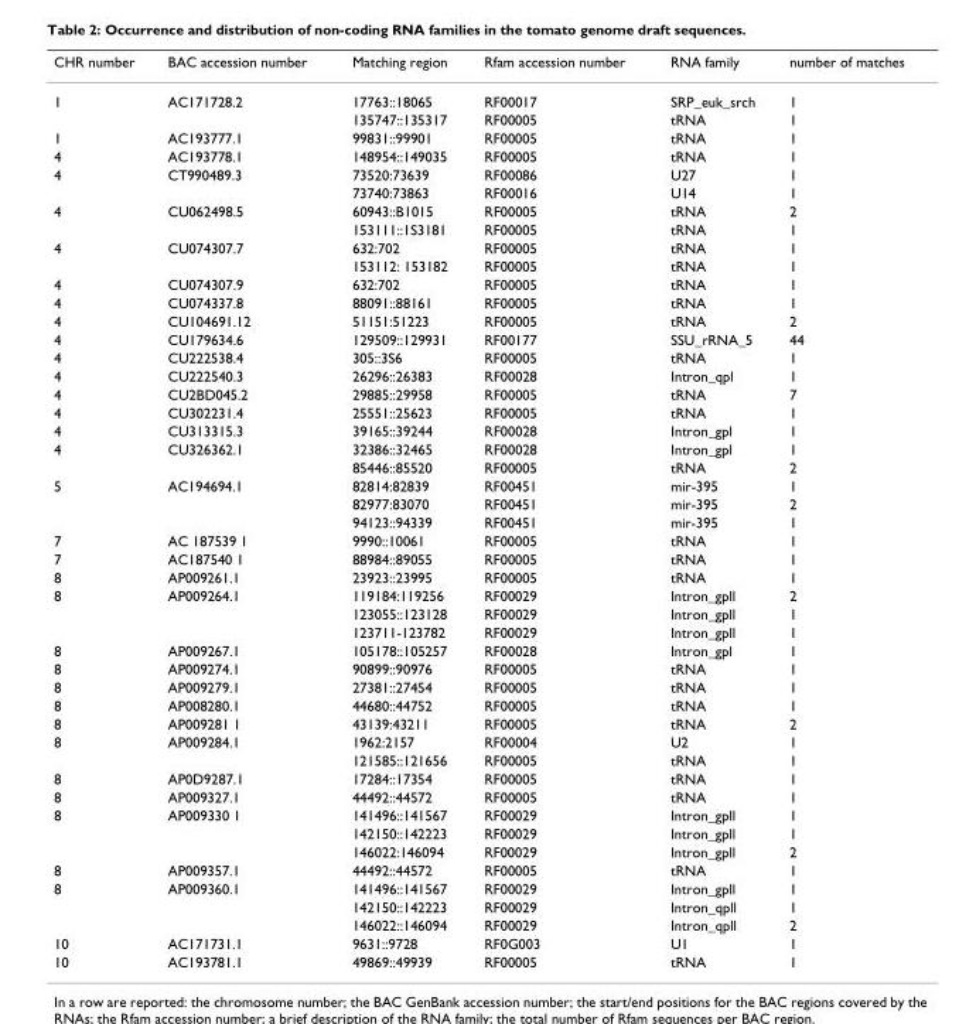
<table><thead><tr><td>CHR number</td><td>BAC accession number</td><td>Matching region</td><td>Rfam accession number</td><td>RNA family</td><td>number of matches</td></tr></thead><tbody><tr><td rowspan="2">1</td><td>AC171728.2</td><td>17763::18065</td><td>RF00017</td><td>SRP_euk_srch</td><td>1</td></tr><tr><td></td><td>135747::135317</td><td>RF00005</td><td>tRNA</td><td>1</td></tr><tr><td>1</td><td>AC193777.1</td><td>99831::99901</td><td>RF00005</td><td>tRNA</td><td>1</td></tr><tr><td>4</td><td>AC193778.1</td><td>148954::149035</td><td>RF00005</td><td>tRNA</td><td>1</td></tr><tr><td rowspan="2">4</td><td>CT990489.3</td><td>73520:73639</td><td>RF00086</td><td>U27</td><td>1</td></tr><tr><td></td><td>73740:73863</td><td>RF00016</td><td>U14</td><td>1</td></tr><tr><td rowspan="2">4</td><td>CU062498.5</td><td>60943::B1015</td><td>RF00005</td><td>tRNA</td><td>2</td></tr><tr><td></td><td>153111::1S3181</td><td>RF00005</td><td>tRNA</td><td>1</td></tr><tr><td rowspan="2">4</td><td>CU074307.7</td><td>632:702</td><td>RF00005</td><td>tRNA</td><td>1</td></tr><tr><td></td><td>153112: 153182</td><td>RF00005</td><td>tRNA</td><td>1</td></tr><tr><td>4</td><td>CU074307.9</td><td>632:702</td><td>RF00005</td><td>tRNA</td><td>1</td></tr><tr><td>4</td><td>CU074337.8</td><td>88091::88161</td><td>RF00005</td><td>tRNA</td><td>1</td></tr><tr><td>4</td><td>CU104691.12</td><td>51151:51223</td><td>RF00005</td><td>tRNA</td><td>2</td></tr><tr><td>4</td><td>CU179634.6</td><td>129509::129931</td><td>RF00177</td><td>SSU_rRNA_5</td><td>44</td></tr><tr><td>4</td><td>CU222538.4</td><td>305::3S6</td><td>RF00005</td><td>tRNA</td><td>1</td></tr><tr><td>4</td><td>CU222540.3</td><td>26296::26383</td><td>RF00028</td><td>Intron_qpl</td><td>1</td></tr><tr><td>4</td><td>CU2BD045.2</td><td>29885::29958</td><td>RF00005</td><td>tRNA</td><td>7</td></tr><tr><td>4</td><td>CU302231.4</td><td>25551::25623</td><td>RF00005</td><td>tRNA</td><td>1</td></tr><tr><td>4</td><td>CU313315.3</td><td>39165::39244</td><td>RF00028</td><td>Intron_gpl</td><td>1</td></tr><tr><td rowspan="2">4</td><td>CU326362.1</td><td>32386::32465</td><td>RF00028</td><td>Intron_gpl</td><td>1</td></tr><tr><td></td><td>85446::85520</td><td>RF00005</td><td>tRNA</td><td>2</td></tr><tr><td rowspan="3">5</td><td>AC194694.1</td><td>82814:82839</td><td>RF00451</td><td>mir-395</td><td>1</td></tr><tr><td></td><td>82977:83070</td><td>RF00451</td><td>mir-395</td><td>2</td></tr><tr><td></td><td>94123::94339</td><td>RF00451</td><td>mir-395</td><td>1</td></tr><tr><td>7</td><td>AC 187539 1</td><td>9990::10061</td><td>RF00005</td><td>tRNA</td><td>1</td></tr><tr><td>7</td><td>AC187540 1</td><td>88984::89055</td><td>RF00005</td><td>tRNA</td><td>1</td></tr><tr><td>8</td><td>AP009261.1</td><td>23923::23995</td><td>RF00005</td><td>tRNA</td><td>1</td></tr><tr><td rowspan="3">8</td><td>AP009264.1</td><td>119184:119256</td><td>RF00029</td><td>Intron_gpll</td><td>2</td></tr><tr><td></td><td>123055::123128</td><td>RF00029</td><td>Intron_gpll</td><td>1</td></tr><tr><td></td><td>123711-123782</td><td>RF00029</td><td>Intron_gpll</td><td>1</td></tr><tr><td>8</td><td>AP009267.1</td><td>105178::105257</td><td>RF00028</td><td>Intron_gpl</td><td>1</td></tr><tr><td>8</td><td>AP009274.1</td><td>90899::90976</td><td>RF00005</td><td>tRNA</td><td>1</td></tr><tr><td>8</td><td>AP009279.1</td><td>27381::27454</td><td>RF00005</td><td>tRNA</td><td>1</td></tr><tr><td>8</td><td>AP008280.1</td><td>44680::44752</td><td>RF00005</td><td>tRNA</td><td>1</td></tr><tr><td>8</td><td>AP009281 1</td><td>43139:43211</td><td>RF00005</td><td>tRNA</td><td>2</td></tr><tr><td rowspan="2">8</td><td>AP009284.1</td><td>1962:2157</td><td>RF00004</td><td>U2</td><td>1</td></tr><tr><td></td><td>121585::121656</td><td>RF00005</td><td>tRNA</td><td>1</td></tr><tr><td>8</td><td>AP0D9287.1</td><td>17284::17354</td><td>RF00005</td><td>tRNA</td><td>1</td></tr><tr><td>8</td><td>AP009327.1</td><td>44492::44572</td><td>RF00005</td><td>tRNA</td><td>1</td></tr><tr><td rowspan="3">8</td><td>AP009330 1</td><td>141496::141567</td><td>RF00029</td><td>Intron_gpll</td><td>1</td></tr><tr><td></td><td>142150::142223</td><td>RF00029</td><td>Intron_gpll</td><td>1</td></tr><tr><td></td><td>146022:146094</td><td>RF00029</td><td>Intron_gpll</td><td>2</td></tr><tr><td>8</td><td>AP009357.1</td><td>44492::44572</td><td>RF00005</td><td>tRNA</td><td>1</td></tr><tr><td rowspan="3">8</td><td>AP009360.1</td><td>141496::141567</td><td>RF00029</td><td>Intron_gpll</td><td>1</td></tr><tr><td></td><td>142150::142223</td><td>RF00029</td><td>Intron_qpll</td><td>1</td></tr><tr><td></td><td>146022::146094</td><td>RF00029</td><td>Intron_qpll</td><td>2</td></tr><tr><td>10</td><td>AC171731.1</td><td>9631::9728</td><td>RF0G003</td><td>U1</td><td>1</td></tr><tr><td>10</td><td>AC193781.1</td><td>49869::49939</td><td>RF00005</td><td>tRNA</td><td>1</td></tr></tbody></table>